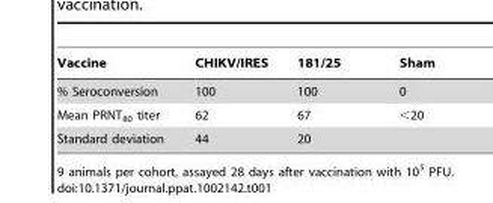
<table><thead><tr><td>Vaccine</td><td>CHIKV/IRES</td><td>181/25</td><td>Sham</td></tr></thead><tbody><tr><td>% Seroconversion</td><td>100</td><td>100</td><td>0</td></tr><tr><td>Mean PRNT<sub>80</sub> titer</td><td>62</td><td>67</td><td>&lt;20</td></tr><tr><td>Standard deviation</td><td>44</td><td>20</td><td></td></tr></tbody></table>